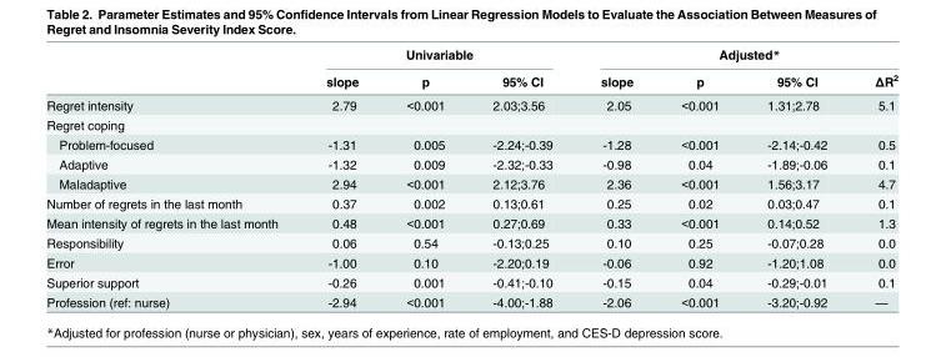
<table><thead><tr><td rowspan="2"></td><td colspan="3">Univariable</td><td colspan="4">Adjusted*</td></tr><tr><td>slope</td><td>p</td><td>95% CI</td><td>slope</td><td>p</td><td>95% CI</td><td>ΔR<sup>2</sup></td></tr></thead><tbody><tr><td>Regret intensity</td><td>2.79</td><td>&lt;0.001</td><td>2.03;3.56</td><td>2.05</td><td>&lt;0.001</td><td>1.31;2.78</td><td>5.1</td></tr><tr><td colspan="8">Regret coping</td></tr><tr><td>Problem-focused</td><td>-1.31</td><td>0.005</td><td>-2.24;-0.39</td><td>-1.28</td><td>&lt;0.001</td><td>-2.14;-0.42</td><td>0.5</td></tr><tr><td>Adaptive</td><td>-1.32</td><td>0.009</td><td>-2.32;-0.33</td><td>-0.98</td><td>0.04</td><td>-1.89;-0.06</td><td>0.1</td></tr><tr><td>Maladaptive</td><td>2.94</td><td>&lt;0.001</td><td>2.12;3.76</td><td>2.36</td><td>&lt;0.001</td><td>1.56;3.17</td><td>4.7</td></tr><tr><td>Number of regrets in the last month</td><td>0.37</td><td>0.002</td><td>0.13;0.61</td><td>0.25</td><td>0.02</td><td>0.03;0.47</td><td>0.1</td></tr><tr><td>Mean intensity of regrets in the last month</td><td>0.48</td><td>&lt;0.001</td><td>0.27;0.69</td><td>0.33</td><td>&lt;0.001</td><td>0.14;0.52</td><td>1.3</td></tr><tr><td>Responsibility</td><td>0.06</td><td>0.54</td><td>-0.13;0.25</td><td>0.10</td><td>0.25</td><td>-0.07;0.28</td><td>0.0</td></tr><tr><td>Error</td><td>-1.00</td><td>0.10</td><td>-2.20;0.19</td><td>-0.06</td><td>0.92</td><td>-1.20;1.08</td><td>0.0</td></tr><tr><td>Superior support</td><td>-0.26</td><td>0.001</td><td>-0.41;-0.10</td><td>-0.15</td><td>0.04</td><td>-0.29;-0.01</td><td>0.1</td></tr><tr><td>Profession (ref: nurse)</td><td>-2.94</td><td>&lt;0.001</td><td>-4.00;-1.88</td><td>-2.06</td><td>&lt;0.001</td><td>-3.20;-0.92</td><td>—</td></tr></tbody></table>